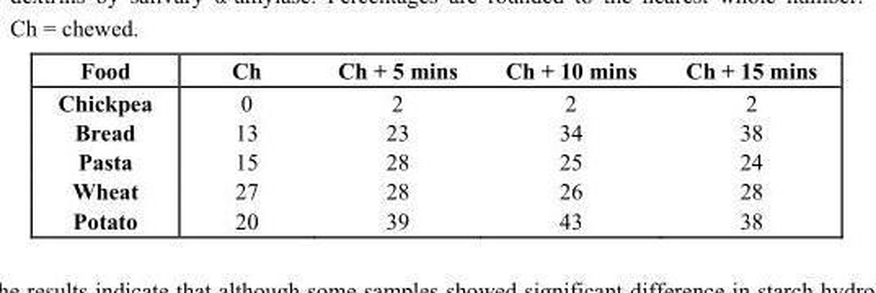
<table><thead><tr><td>Food</td><td>Ch</td><td>Ch + 5 mins</td><td>Ch + 10 mins</td><td>Ch + 15 mins</td></tr></thead><tbody><tr><td>Chickpea</td><td>0</td><td>2</td><td>2</td><td>2</td></tr><tr><td>Bread</td><td>13</td><td>23</td><td>34</td><td>38</td></tr><tr><td>Pasta</td><td>15</td><td>28</td><td>25</td><td>24</td></tr><tr><td>Wheat</td><td>27</td><td>28</td><td>26</td><td>28</td></tr><tr><td>Potato</td><td>20</td><td>39</td><td>43</td><td>38</td></tr></tbody></table>